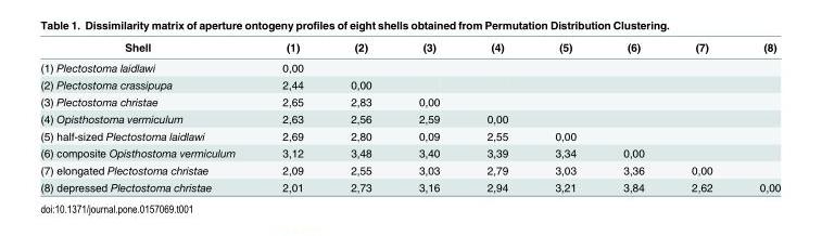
<table><thead><tr><td>Shell</td><td>(1)</td><td>(2)</td><td>(3)</td><td>(4)</td><td>(5)</td><td>(6)</td><td>(7)</td><td>(8)</td></tr></thead><tbody><tr><td>(1) Plectostoma laidlawi</td><td>0,00</td><td></td><td></td><td></td><td></td><td></td><td></td><td></td></tr><tr><td>(2) Plectostoma crassipupa</td><td>2,44</td><td>0,00</td><td></td><td></td><td></td><td></td><td></td><td></td></tr><tr><td>(3) Plectostoma christae</td><td>2,65</td><td>2,83</td><td>0,00</td><td></td><td></td><td></td><td></td><td></td></tr><tr><td>(4) Opisthostoma vermiculum</td><td>2,63</td><td>2,56</td><td>2,59</td><td>0,00</td><td></td><td></td><td></td><td></td></tr><tr><td>(5) half-sized Plectostoma laidlawi</td><td>2,69</td><td>2,80</td><td>0,09</td><td>2,55</td><td>0,00</td><td></td><td></td><td></td></tr><tr><td>(6) composite Opisthostoma vermiculum</td><td>3,12</td><td>3,48</td><td>3,40</td><td>3,39</td><td>3,34</td><td>0,00</td><td></td><td></td></tr><tr><td>(7) elongated Plectostoma christae</td><td>2,09</td><td>2,55</td><td>3,03</td><td>2,79</td><td>3,03</td><td>3,36</td><td>0,00</td><td></td></tr><tr><td>(8) depressed Plectostoma christae</td><td>2,01</td><td>2,73</td><td>3,16</td><td>2,94</td><td>3,21</td><td>3,84</td><td>2,62</td><td>0,00</td></tr></tbody></table>